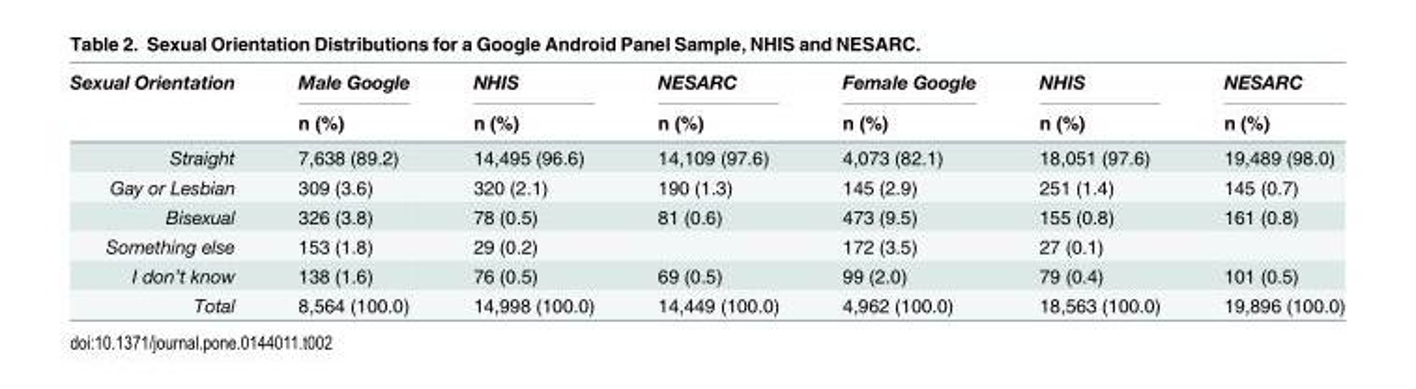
<table><thead><tr><td rowspan="2">Sexual Orientation</td><td rowspan="2">Male Google n (%)</td><td rowspan="2">NHIS n (%)</td><td rowspan="2">NESARC n (%)</td><td rowspan="2">Female Google n (%)</td><td rowspan="2">NHIS n (%)</td><td rowspan="2">NESARC n (%)</td></tr><tr></tr></thead><tbody><tr><td>Straight</td><td>7,638 (89.2)</td><td>14,495 (96.6)</td><td>14,109 (97.6)</td><td>4,073 (82.1)</td><td>18,051 (97.6)</td><td>19,489 (98.0)</td></tr><tr><td>Gay or Lesbian</td><td>309 (3.6)</td><td>320 (2.1)</td><td>190 (1.3)</td><td>145 (2.9)</td><td>251 (1.4)</td><td>145 (0.7)</td></tr><tr><td>Bisexual</td><td>326 (3.8)</td><td>78 (0.5)</td><td>81 (0.6)</td><td>473 (9.5)</td><td>155 (0.8)</td><td>161 (0.8)</td></tr><tr><td>Something else</td><td>153 (1.8)</td><td>29 (0.2)</td><td></td><td>172 (3.5)</td><td>27 (0.1)</td><td></td></tr><tr><td>I don’t know</td><td>138 (1.6)</td><td>76 (0.5)</td><td>69 (0.5)</td><td>99 (2.0)</td><td>79 (0.4)</td><td>101 (0.5)</td></tr><tr><td>Total</td><td>8,564 (100.0)</td><td>14,998 (100.0)</td><td>14,449 (100.0)</td><td>4,962 (100.0)</td><td>18,563 (100.0)</td><td>19,896 (100.0)</td></tr></tbody></table>